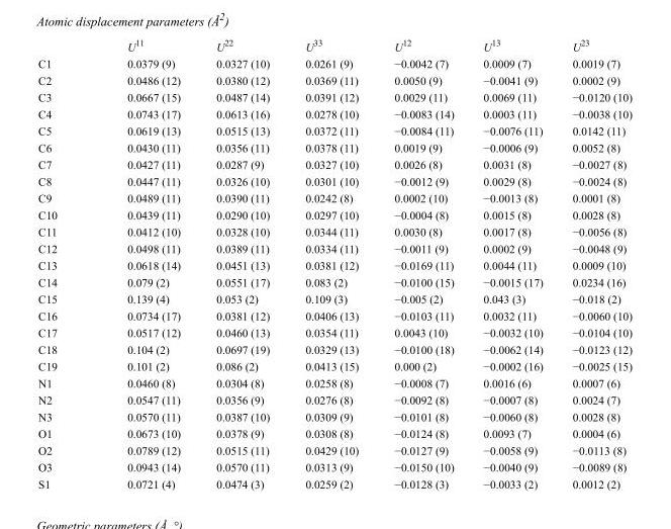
<table><thead><tr><td></td><td>U<sup>11</sup></td><td>U<sup>22</sup></td><td>U<sup>33</sup></td><td>U<sup>12</sup></td><td>U<sup>13</sup></td><td>U<sup>23</sup></td></tr></thead><tbody><tr><td>C1</td><td>0.0379 (9)</td><td>0.0327 (10)</td><td>0.0261 (9)</td><td>−0.0042 (7)</td><td>0.0009 (7)</td><td>0.0019 (7)</td></tr><tr><td>C2</td><td>0.0486 (12)</td><td>0.0380 (12)</td><td>0.0369 (11)</td><td>0.0050 (9)</td><td>−0.0041 (9)</td><td>0.0002 (9)</td></tr><tr><td>C3</td><td>0.0667 (15)</td><td>0.0487 (14)</td><td>0.0391 (12)</td><td>0.0029 (11)</td><td>0.0069 (11)</td><td>−0.0120 (10)</td></tr><tr><td>C4</td><td>0.0743 (17)</td><td>0.0613 (16)</td><td>0.0278 (10)</td><td>−0.0083 (14)</td><td>0.0003 (11)</td><td>−0.0038 (10)</td></tr><tr><td>C5</td><td>0.0619 (13)</td><td>0.0515 (13)</td><td>0.0372 (11)</td><td>−0.0084 (11)</td><td>−0.0076 (11)</td><td>0.0142 (11)</td></tr><tr><td>C6</td><td>0.0430 (11)</td><td>0.0356 (11)</td><td>0.0378 (11)</td><td>0.0019 (9)</td><td>−0.0006 (9)</td><td>0.0052 (8)</td></tr><tr><td>C7</td><td>0.0427 (11)</td><td>0.0287 (9)</td><td>0.0327 (10)</td><td>0.0026 (8)</td><td>0.0031 (8)</td><td>−0.0027 (8)</td></tr><tr><td>C8</td><td>0.0447 (11)</td><td>0.0326 (10)</td><td>0.0301 (10)</td><td>−0.0012 (9)</td><td>0.0029 (8)</td><td>−0.0024 (8)</td></tr><tr><td>C9</td><td>0.0489 (11)</td><td>0.0390 (11)</td><td>0.0242 (8)</td><td>0.0002 (10)</td><td>−0.0013 (8)</td><td>0.0001 (8)</td></tr><tr><td>C10</td><td>0.0439 (11)</td><td>0.0290 (10)</td><td>0.0297 (10)</td><td>−0.0004 (8)</td><td>0.0015 (8)</td><td>0.0028 (8)</td></tr><tr><td>C11</td><td>0.0412 (10)</td><td>0.0328 (10)</td><td>0.0344 (11)</td><td>0.0030 (8)</td><td>0.0017 (8)</td><td>−0.0056 (8)</td></tr><tr><td>C12</td><td>0.0498 (11)</td><td>0.0389 (11)</td><td>0.0334 (11)</td><td>−0.0011 (9)</td><td>0.0002 (9)</td><td>−0.0048 (9)</td></tr><tr><td>C13</td><td>0.0618 (14)</td><td>0.0451 (13)</td><td>0.0381 (12)</td><td>−0.0169 (11)</td><td>0.0044 (11)</td><td>0.0009 (10)</td></tr><tr><td>C14</td><td>0.079 (2)</td><td>0.0551 (17)</td><td>0.083 (2)</td><td>−0.0100 (15)</td><td>−0.0015 (17)</td><td>0.0234 (16)</td></tr><tr><td>C15</td><td>0.139 (4)</td><td>0.053 (2)</td><td>0.109 (3)</td><td>−0.005 (2)</td><td>0.043 (3)</td><td>−0.018 (2)</td></tr><tr><td>C16</td><td>0.0734 (17)</td><td>0.0381 (12)</td><td>0.0406 (13)</td><td>−0.0103 (11)</td><td>0.0032 (11)</td><td>−0.0060 (10)</td></tr><tr><td>C17</td><td>0.0517 (12)</td><td>0.0460 (13)</td><td>0.0354 (11)</td><td>0.0043 (10)</td><td>−0.0032 (10)</td><td>−0.0104 (10)</td></tr><tr><td>C18</td><td>0.104 (2)</td><td>0.0697 (19)</td><td>0.0329 (13)</td><td>−0.0100 (18)</td><td>−0.0062 (14)</td><td>−0.0123 (12)</td></tr><tr><td>C19</td><td>0.101 (2)</td><td>0.086 (2)</td><td>0.0413 (15)</td><td>0.000 (2)</td><td>−0.0002 (16)</td><td>−0.0025 (15)</td></tr><tr><td>N1</td><td>0.0460 (8)</td><td>0.0304 (8)</td><td>0.0258 (8)</td><td>−0.0008 (7)</td><td>0.0016 (6)</td><td>0.0007 (6)</td></tr><tr><td>N2</td><td>0.0547 (11)</td><td>0.0356 (9)</td><td>0.0276 (8)</td><td>−0.0092 (8)</td><td>−0.0007 (8)</td><td>0.0024 (7)</td></tr><tr><td>N3</td><td>0.0570 (11)</td><td>0.0387 (10)</td><td>0.0309 (9)</td><td>−0.0101 (8)</td><td>−0.0060 (8)</td><td>0.0028 (8)</td></tr><tr><td>O1</td><td>0.0673 (10)</td><td>0.0378 (9)</td><td>0.0308 (8)</td><td>−0.0124 (8)</td><td>0.0093 (7)</td><td>0.0004 (6)</td></tr><tr><td>O2</td><td>0.0789 (12)</td><td>0.0515 (11)</td><td>0.0429 (10)</td><td>−0.0127 (9)</td><td>−0.0058 (9)</td><td>−0.0113 (8)</td></tr><tr><td>O3</td><td>0.0943 (14)</td><td>0.0570 (11)</td><td>0.0313 (9)</td><td>−0.0150 (10)</td><td>−0.0040 (9)</td><td>−0.0089 (8)</td></tr><tr><td>S1</td><td>0.0721 (4)</td><td>0.0474 (3)</td><td>0.0259 (2)</td><td>−0.0128 (3)</td><td>−0.0033 (2)</td><td>0.0012 (2)</td></tr></tbody></table>